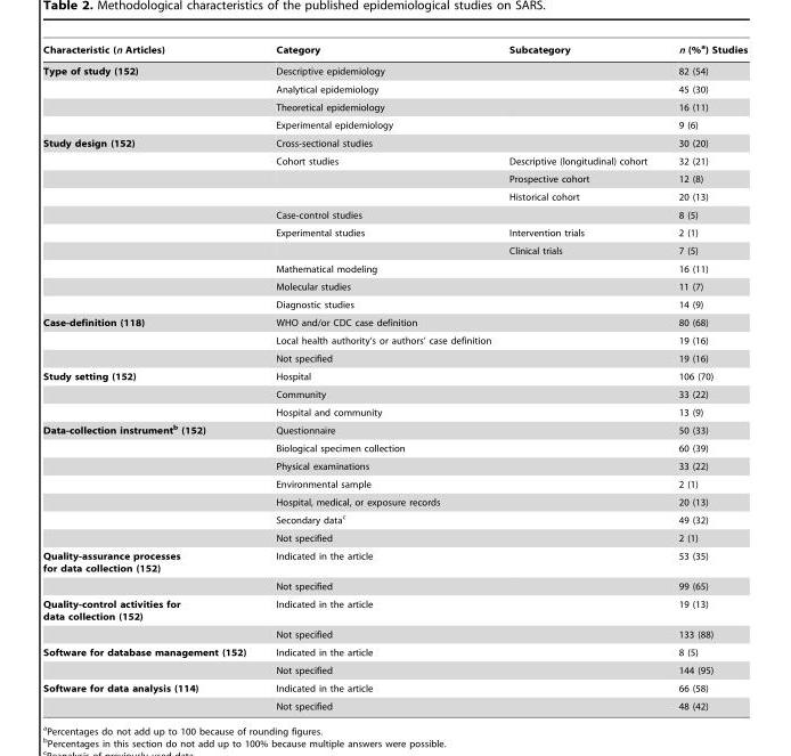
<table><thead><tr><td>Characteristic (n Articles)</td><td>Category</td><td>Subcategory</td><td>n (%<sup>a</sup>) Studies</td></tr></thead><tbody><tr><td rowspan="4">Type of study (152)</td><td>Descriptive epidemiology</td><td></td><td>82 (54)</td></tr><tr><td>Analytical epidemiology</td><td></td><td>45 (30)</td></tr><tr><td>Theoretical epidemiology</td><td></td><td>16 (11)</td></tr><tr><td>Experimental epidemiology</td><td></td><td>9 (6)</td></tr><tr><td rowspan="10">Study design (152)</td><td>Cross-sectional studies</td><td></td><td>30 (20)</td></tr><tr><td>Cohort studies</td><td>Descriptive (longitudinal) cohort</td><td>32 (21)</td></tr><tr><td></td><td>Prospective cohort</td><td>12 (8)</td></tr><tr><td></td><td>Historical cohort</td><td>20 (13)</td></tr><tr><td>Case-control studies</td><td></td><td>8 (5)</td></tr><tr><td>Experimental studies</td><td>Intervention trials</td><td>2 (1)</td></tr><tr><td></td><td>Clinical trials</td><td>7 (5)</td></tr><tr><td>Mathematical modeling</td><td></td><td>16 (11)</td></tr><tr><td>Molecular studies</td><td></td><td>11 (7)</td></tr><tr><td>Diagnostic studies</td><td></td><td>14 (9)</td></tr><tr><td rowspan="3">Case-definition (118)</td><td>WHO and/or CDC case definition</td><td></td><td>80 (68)</td></tr><tr><td>Local health authority’s or authors’ case definition</td><td></td><td>19 (16)</td></tr><tr><td>Not specified</td><td></td><td>19 (16)</td></tr><tr><td rowspan="3">Study setting (152)</td><td>Hospital</td><td></td><td>106 (70)</td></tr><tr><td>Community</td><td></td><td>33 (22)</td></tr><tr><td>Hospital and community</td><td></td><td>13 (9)</td></tr><tr><td rowspan="7">Data-collection instrumentb (152)</td><td>Questionnaire</td><td></td><td>50 (33)</td></tr><tr><td>Biological specimen collection</td><td></td><td>60 (39)</td></tr><tr><td>Physical examinations</td><td></td><td>33 (22)</td></tr><tr><td>Environmental sample</td><td></td><td>2 (1)</td></tr><tr><td>Hospital, medical, or exposure records</td><td></td><td>20 (13)</td></tr><tr><td>Secondary data<sup>c</sup></td><td></td><td>49 (32)</td></tr><tr><td>Not specified</td><td></td><td>2 (1)</td></tr><tr><td rowspan="2">Quality-assurance processes for data collection (152)</td><td>Indicated in the article</td><td></td><td>53 (35)</td></tr><tr><td>Not specified</td><td></td><td>99 (65)</td></tr><tr><td rowspan="2">Quality-control activities for data collection (152)</td><td>Indicated in the article</td><td></td><td>19 (13)</td></tr><tr><td>Not specified</td><td></td><td>133 (88)</td></tr><tr><td rowspan="2">Software for database management (152)</td><td>Indicated in the article</td><td></td><td>8 (5)</td></tr><tr><td>Not specified</td><td></td><td>144 (95)</td></tr><tr><td rowspan="2">Software for data analysis (114)</td><td>Indicated in the article</td><td></td><td>66 (58)</td></tr><tr><td>Not specified</td><td></td><td>48 (42)</td></tr></tbody></table>